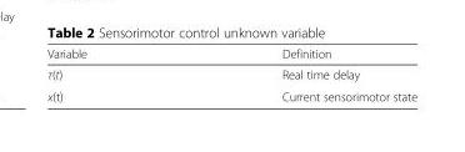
<table><thead><tr><td>Variable</td><td>Definition</td></tr></thead><tbody><tr><td>τ(t)</td><td>Real time delay</td></tr><tr><td>x(t)</td><td>Current sensorimotor state</td></tr></tbody></table>